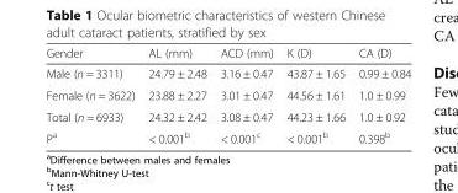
<table><thead><tr><td>Gender</td><td>AL (mm)</td><td>ACD (mm)</td><td>K (D)</td><td>CA (D)</td></tr></thead><tbody><tr><td>Male (n = 3311)</td><td>24.79 ± 2.48</td><td>3.16 ± 0.47</td><td>43.87 ± 1.65</td><td>0.99 ± 0.84</td></tr><tr><td>Female (n = 3622)</td><td>23.88 ± 2.27</td><td>3.01 ± 0.47</td><td>44.56 ± 1.61</td><td>1.0 ± 0.99</td></tr><tr><td>Total (n = 6933)</td><td>24.32 ± 2.42</td><td>3.08 ± 0.47</td><td>44.23 ± 1.66</td><td>1.0 ± 0.92</td></tr><tr><td>P<sup>a</sup></td><td>&lt; 0.001<sup>b</sup></td><td>&lt; 0.001<sup>c</sup></td><td>&lt; 0.001<sup>b</sup></td><td>0.398<sup>b</sup></td></tr></tbody></table>